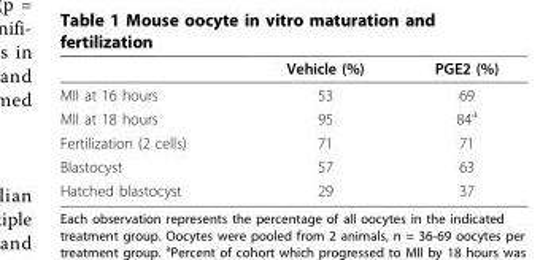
<table><thead><tr><td></td><td>Vehicle (%)</td><td>PGE2 (%)</td></tr></thead><tbody><tr><td>MII at 16 hours</td><td>53</td><td>69</td></tr><tr><td>MII at 18 hours</td><td>95</td><td>84<sup>a</sup></td></tr><tr><td>Fertilization (2 cells)</td><td>71</td><td>71</td></tr><tr><td>Blastocyst</td><td>57</td><td>63</td></tr><tr><td>Hatched blastocyst</td><td>29</td><td>37</td></tr></tbody></table>